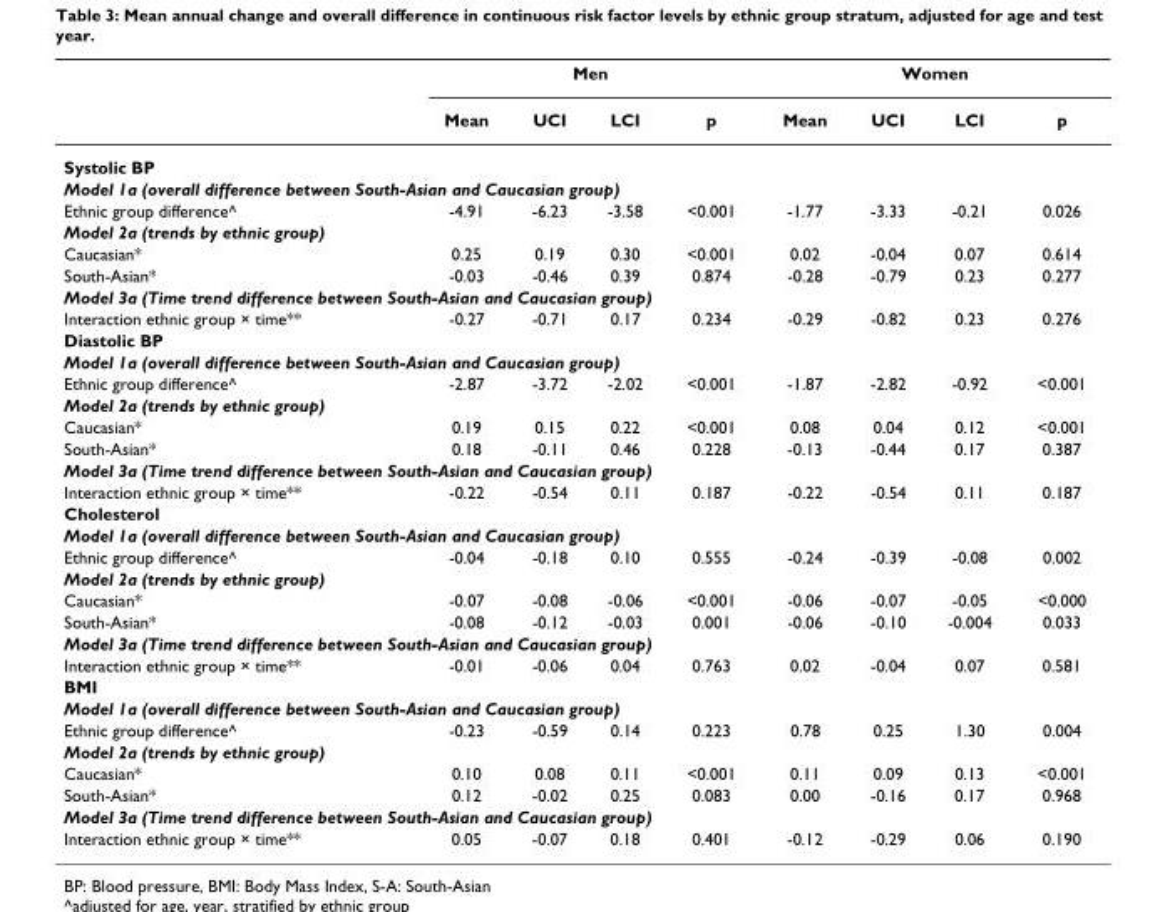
<table><thead><tr><td rowspan="2"></td><td colspan="4">Men</td><td colspan="4">Women</td></tr><tr><td>Mean</td><td>UCI</td><td>LCI</td><td>p</td><td>Mean</td><td>UCI</td><td>LCI</td><td>p</td></tr></thead><tbody><tr><td colspan="9">Systolic BP</td></tr><tr><td colspan="9">Model 1a (overall difference between South-Asian and Caucasian group)</td></tr><tr><td>Ethnic group difference^</td><td>-4.91</td><td>-6.23</td><td>-3.58</td><td>&lt;0.001</td><td>-1.77</td><td>-3.33</td><td>-0.21</td><td>0.026</td></tr><tr><td colspan="9">Model 2a (trends by ethnic group)</td></tr><tr><td>Caucasian*</td><td>0.25</td><td>0.19</td><td>0.30</td><td>&lt;0.001</td><td>0.02</td><td>-0.04</td><td>0.07</td><td>0.614</td></tr><tr><td>South-Asian*</td><td>-0.03</td><td>-0.46</td><td>0.39</td><td>0.874</td><td>-0.28</td><td>-0.79</td><td>0.23</td><td>0.277</td></tr><tr><td colspan="9">Model 3a (Time trend difference between South-Asian and Caucasian group)</td></tr><tr><td>Interaction ethnic group × time**</td><td>-0.27</td><td>-0.71</td><td>0.17</td><td>0.234</td><td>-0.29</td><td>-0.82</td><td>0.23</td><td>0.276</td></tr><tr><td colspan="9">Diastolic BP</td></tr><tr><td colspan="9">Model 1a (overall difference between South-Asian and Caucasian group)</td></tr><tr><td>Ethnic group difference^</td><td>-2.87</td><td>-3.72</td><td>-2.02</td><td>&lt;0.001</td><td>-1.87</td><td>-2.82</td><td>-0.92</td><td>&lt;0.001</td></tr><tr><td colspan="9">Model 2a (trends by ethnic group)</td></tr><tr><td>Caucasian*</td><td>0.19</td><td>0.15</td><td>0.22</td><td>&lt;0.001</td><td>0.08</td><td>0.04</td><td>0.12</td><td>&lt;0.001</td></tr><tr><td>South-Asian*</td><td>0.18</td><td>-0.11</td><td>0.46</td><td>0.228</td><td>-0.13</td><td>-0.44</td><td>0.17</td><td>0.387</td></tr><tr><td colspan="9">Model 3a (Time trend difference between South-Asian and Caucasian group)</td></tr><tr><td>Interaction ethnic group × time**</td><td>-0.22</td><td>-0.54</td><td>0.11</td><td>0.187</td><td>-0.22</td><td>-0.54</td><td>0.11</td><td>0.187</td></tr><tr><td colspan="9">Cholesterol</td></tr><tr><td colspan="9">Model 1a (overall difference between South-Asian and Caucasian group)</td></tr><tr><td>Ethnic group difference^</td><td>-0.04</td><td>-0.18</td><td>0.10</td><td>0.555</td><td>-0.24</td><td>-0.39</td><td>-0.08</td><td>0.002</td></tr><tr><td colspan="9">Model 2a (trends by ethnic group)</td></tr><tr><td>Caucasian*</td><td>-0.07</td><td>-0.08</td><td>-0.06</td><td>&lt;0.001</td><td>-0.06</td><td>-0.07</td><td>-0.05</td><td>&lt;0.000</td></tr><tr><td>South-Asian*</td><td>-0.08</td><td>-0.12</td><td>-0.03</td><td>0.001</td><td>-0.06</td><td>-0.10</td><td>-0.004</td><td>0.033</td></tr><tr><td colspan="9">Model 3a (Time trend difference between South-Asian and Caucasian group)</td></tr><tr><td>Interaction ethnic group × time**</td><td>-0.01</td><td>-0.06</td><td>0.04</td><td>0.763</td><td>0.02</td><td>-0.04</td><td>0.07</td><td>0.581</td></tr><tr><td colspan="9">BMI</td></tr><tr><td colspan="9">Model 1a (overall difference between South-Asian and Caucasian group)</td></tr><tr><td>Ethnic group difference^</td><td>-0.23</td><td>-0.59</td><td>0.14</td><td>0.223</td><td>0.78</td><td>0.25</td><td>1.30</td><td>0.004</td></tr><tr><td colspan="9">Model 2a (trends by ethnic group)</td></tr><tr><td>Caucasian*</td><td>0.10</td><td>0.08</td><td>0.11</td><td>&lt;0.001</td><td>0.11</td><td>0.09</td><td>0.13</td><td>&lt;0.001</td></tr><tr><td>South-Asian*</td><td>0.12</td><td>-0.02</td><td>0.25</td><td>0.083</td><td>0.00</td><td>-0.16</td><td>0.17</td><td>0.968</td></tr><tr><td colspan="9">Model 3a (Time trend difference between South-Asian and Caucasian group)</td></tr><tr><td>Interaction ethnic group × time**</td><td>0.05</td><td>-0.07</td><td>0.18</td><td>0.401</td><td>-0.12</td><td>-0.29</td><td>0.06</td><td>0.190</td></tr></tbody></table>